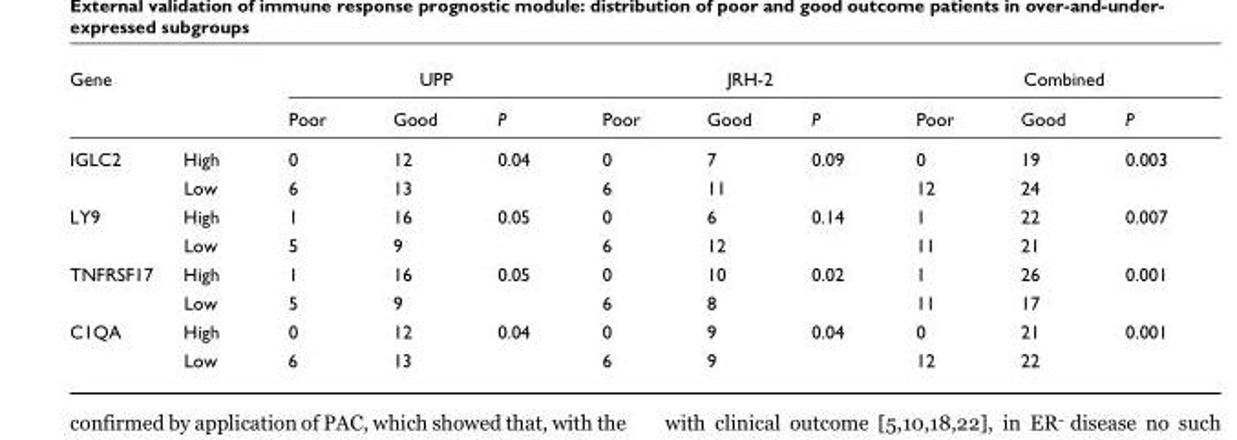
<table><thead><tr><td rowspan="2">Gene</td><td rowspan="2"></td><td colspan="3">UPP</td><td colspan="3">JRH-2</td><td colspan="3">Combined</td></tr><tr><td>Poor</td><td>Good</td><td>P</td><td>Poor</td><td>Good</td><td>P</td><td>Poor</td><td>Good</td><td>P</td></tr></thead><tbody><tr><td rowspan="2">IGLC2</td><td>High</td><td>0</td><td>12</td><td>0.04</td><td>0</td><td>7</td><td>0.09</td><td>0</td><td>19</td><td>0.003</td></tr><tr><td>Low</td><td>6</td><td>13</td><td></td><td>6</td><td>11</td><td></td><td>12</td><td>24</td><td></td></tr><tr><td rowspan="2">LY9</td><td>High</td><td>1</td><td>16</td><td>0.05</td><td>0</td><td>6</td><td>0.14</td><td>1</td><td>22</td><td>0.007</td></tr><tr><td>Low</td><td>5</td><td>9</td><td></td><td>6</td><td>12</td><td></td><td>11</td><td>21</td><td></td></tr><tr><td rowspan="2">TNFRSF17</td><td>High</td><td>1</td><td>16</td><td>0.05</td><td>0</td><td>10</td><td>0.02</td><td>1</td><td>26</td><td>0.001</td></tr><tr><td>Low</td><td>5</td><td>9</td><td></td><td>6</td><td>8</td><td></td><td>11</td><td>17</td><td></td></tr><tr><td rowspan="2">C1QA</td><td>High</td><td>0</td><td>12</td><td>0.04</td><td>0</td><td>9</td><td>0.04</td><td>0</td><td>21</td><td>0.001</td></tr><tr><td>Low</td><td>6</td><td>13</td><td></td><td>6</td><td>9</td><td></td><td>12</td><td>22</td><td></td></tr></tbody></table>